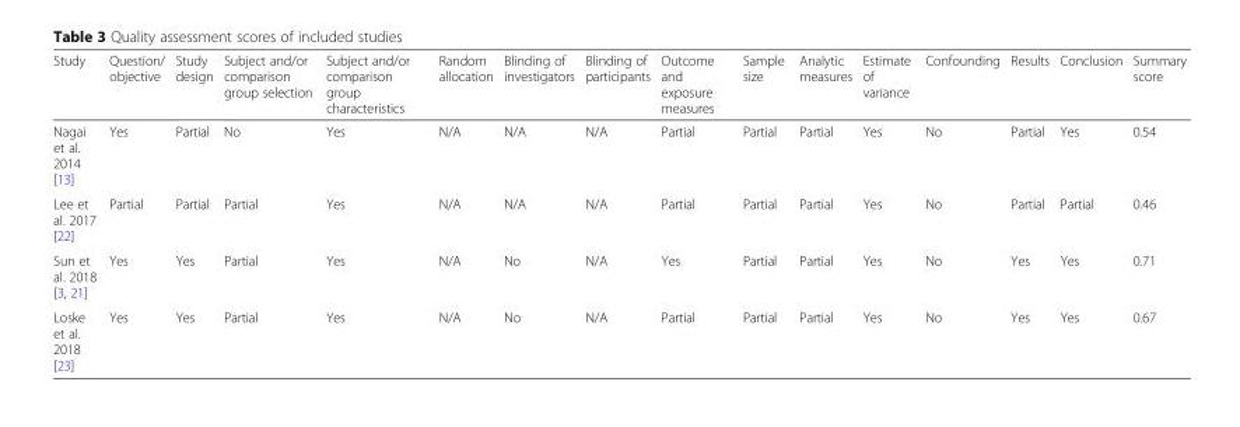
<table><thead><tr><td>Study</td><td>Question/ objective</td><td>Study design</td><td>Subject and/or comparison group selection</td><td>Subject and/or comparison group characteristics</td><td>Random allocation</td><td>Blinding of investigators</td><td>Blinding of participants</td><td>Outcome and exposure measures</td><td>Sample size</td><td>Analytic measures</td><td>Estimate of variance</td><td>Confounding</td><td>Results</td><td>Conclusion</td><td>Summary score</td></tr></thead><tbody><tr><td>Nagai et al. 2014 [13]</td><td>Yes</td><td>Partial</td><td>No</td><td>Yes</td><td>N/A</td><td>N/A</td><td>N/A</td><td>Partial</td><td>Partial</td><td>Partial</td><td>Yes</td><td>No</td><td>Partial</td><td>Yes</td><td>0.54</td></tr><tr><td>Lee et al. 2017 [22]</td><td>Partial</td><td>Partial</td><td>Partial</td><td>Yes</td><td>N/A</td><td>N/A</td><td>N/A</td><td>Partial</td><td>Partial</td><td>Partial</td><td>Yes</td><td>No</td><td>Partial</td><td>Partial</td><td>0.46</td></tr><tr><td>Sun et al. 2018 [3, 21]</td><td>Yes</td><td>Yes</td><td>Partial</td><td>Yes</td><td>N/A</td><td>No</td><td>N/A</td><td>Yes</td><td>Partial</td><td>Partial</td><td>Yes</td><td>No</td><td>Yes</td><td>Yes</td><td>0.71</td></tr><tr><td>Loske et al. 2018 [23]</td><td>Yes</td><td>Yes</td><td>Partial</td><td>Yes</td><td>N/A</td><td>No</td><td>N/A</td><td>Partial</td><td>Partial</td><td>Partial</td><td>Yes</td><td>No</td><td>Yes</td><td>Yes</td><td>0.67</td></tr></tbody></table>